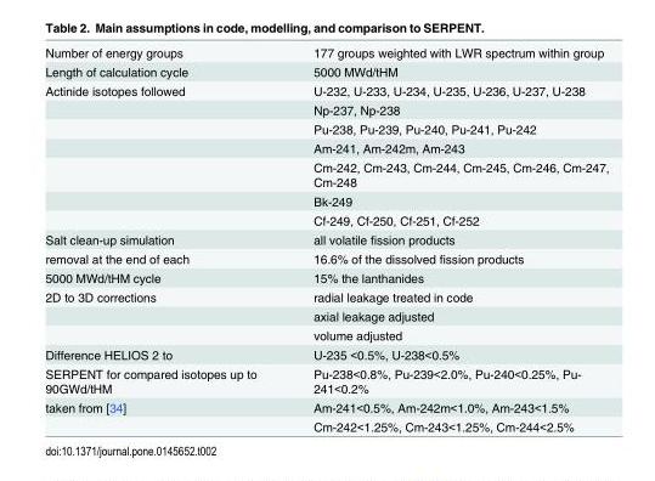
<table><tbody><tr><td>Number of energy groups</td><td>177 groups weighted with LWR spectrum within group</td></tr><tr><td>Length of calculation cycle</td><td>5000 MWd/tHM</td></tr><tr><td rowspan="7">Actinide isotopes followed</td><td>U-232, U-233, U-234, U-235, U-236, U-237, U-238</td></tr><tr><td>Np-237, Np-238</td></tr><tr><td>Pu-238, Pu-239, Pu-240, Pu-241, Pu-242</td></tr><tr><td>Am-241, Am-242m, Am-243</td></tr><tr><td>Cm-242, Cm-243, Cm-244, Cm-245, Cm-246, Cm-247, Cm-248</td></tr><tr><td>Bk-249</td></tr><tr><td>Cf-249, Cf-250, Cf-251, Cf-252</td></tr><tr><td>Salt clean-up simulation</td><td>all volatile fission products</td></tr><tr><td>removal at the end of each</td><td>16.6% of the dissolved fission products</td></tr><tr><td>5000 MWd/tHM cycle</td><td>15% the lanthanides</td></tr><tr><td rowspan="3">2D to 3D corrections</td><td>radial leakage treated in code</td></tr><tr><td>axial leakage adjusted</td></tr><tr><td>volume adjusted</td></tr><tr><td>Difference HELIOS 2 to</td><td>U-235 &lt;0.5%, U-238&lt;0.5%</td></tr><tr><td>SERPENT for compared isotopes up to 90GWd/tHM</td><td>Pu-238&lt;0.8%, Pu-239&lt;2.0%, Pu-240&lt;0.25%, Pu- 241&lt;0.2%</td></tr><tr><td rowspan="2">taken from [34]</td><td>Am-241&lt;0.5%, Am-242m&lt;1.0%, Am-243&lt;1.5%</td></tr><tr><td>Cm-242&lt;1.25%, Cm-243&lt;1.25%, Cm-244&lt;2.5%</td></tr></tbody></table>